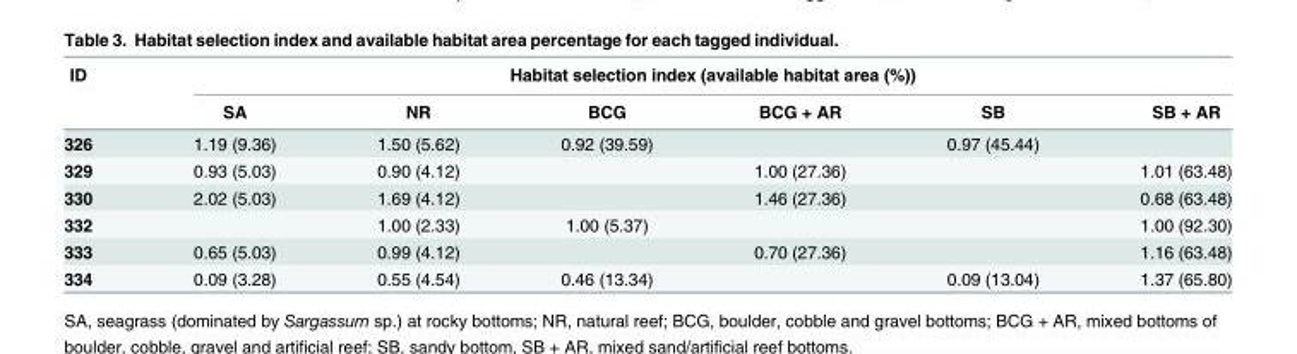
<table><thead><tr><td rowspan="2">ID</td><td colspan="6">Habitat selection index (available habitat area (%))</td></tr><tr><td>SA</td><td>NR</td><td>BCG</td><td>BCG + AR</td><td>SB</td><td>SB + AR</td></tr></thead><tbody><tr><td>326</td><td>1.19 (9.36)</td><td>1.50 (5.62)</td><td>0.92 (39.59)</td><td></td><td>0.97 (45.44)</td><td></td></tr><tr><td>329</td><td>0.93 (5.03)</td><td>0.90 (4.12)</td><td></td><td>1.00 (27.36)</td><td></td><td>1.01 (63.48)</td></tr><tr><td>330</td><td>2.02 (5.03)</td><td>1.69 (4.12)</td><td></td><td>1.46 (27.36)</td><td></td><td>0.68 (63.48)</td></tr><tr><td>332</td><td></td><td>1.00 (2.33)</td><td>1.00 (5.37)</td><td></td><td></td><td>1.00 (92.30)</td></tr><tr><td>333</td><td>0.65 (5.03)</td><td>0.99 (4.12)</td><td></td><td>0.70 (27.36)</td><td></td><td>1.16 (63.48)</td></tr><tr><td>334</td><td>0.09 (3.28)</td><td>0.55 (4.54)</td><td>0.46 (13.34)</td><td></td><td>0.09 (13.04)</td><td>1.37 (65.80)</td></tr></tbody></table>